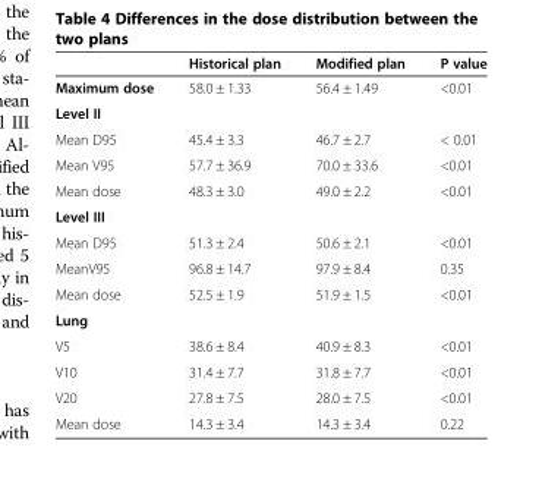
<table><thead><tr><td></td><td>Historical plan</td><td>Modified plan</td><td>P value</td></tr></thead><tbody><tr><td>Maximum dose</td><td>58.0 ± 1.33</td><td>56.4 ± 1.49</td><td>&lt;0.01</td></tr><tr><td colspan="4">Level II</td></tr><tr><td>Mean D95</td><td>45.4 ± 3.3</td><td>46.7 ± 2.7</td><td>&lt; 0.01</td></tr><tr><td>Mean V95</td><td>57.7 ± 36.9</td><td>70.0 ± 33.6</td><td>&lt;0.01</td></tr><tr><td>Mean dose</td><td>48.3 ± 3.0</td><td>49.0 ± 2.2</td><td>&lt;0.01</td></tr><tr><td colspan="4">Level III</td></tr><tr><td>Mean D95</td><td>51.3 ± 2.4</td><td>50.6 ± 2.1</td><td>&lt;0.01</td></tr><tr><td>MeanV95</td><td>96.8 ± 14.7</td><td>97.9 ± 8.4</td><td>0.35</td></tr><tr><td>Mean dose</td><td>52.5 ± 1.9</td><td>51.9 ± 1.5</td><td>&lt;0.01</td></tr><tr><td colspan="4">Lung</td></tr><tr><td>V5</td><td>38.6 ± 8.4</td><td>40.9 ± 8.3</td><td>&lt;0.01</td></tr><tr><td>V10</td><td>31.4 ± 7.7</td><td>31.8 ± 7.7</td><td>&lt;0.01</td></tr><tr><td>V20</td><td>27.8 ± 7.5</td><td>28.0 ± 7.5</td><td>&lt;0.01</td></tr><tr><td>Mean dose</td><td>14.3 ± 3.4</td><td>14.3 ± 3.4</td><td>0.22</td></tr></tbody></table>